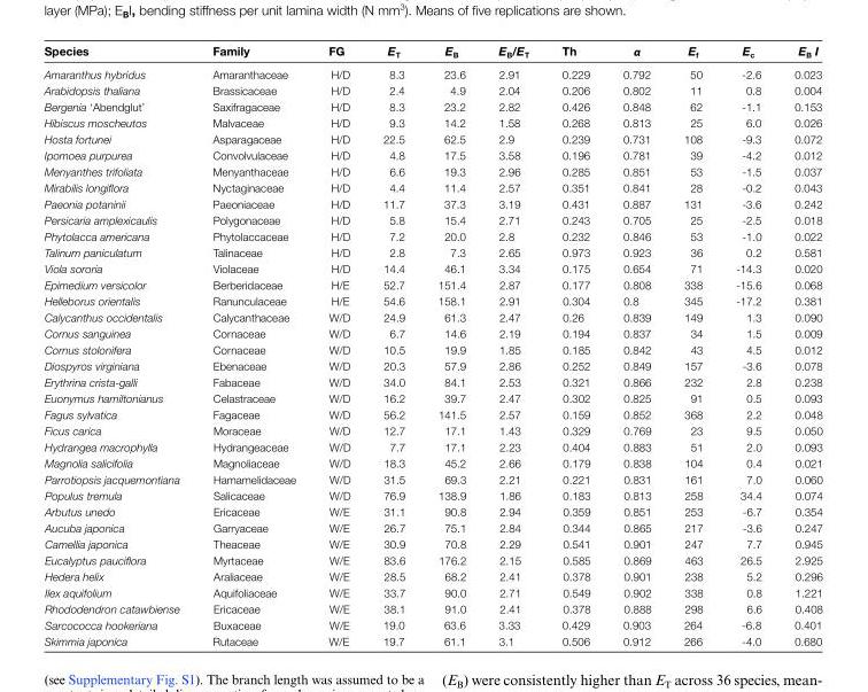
<table><thead><tr><td>Species</td><td>Family</td><td>FG</td><td>E<sub>T</sub></td><td>E<sub>B</sub></td><td>E<sub>B</sub>/E<sub>T</sub></td><td>Th</td><td>α</td><td>E<sub>f</sub></td><td>E<sub>c</sub></td><td>E<sub>B</sub> I</td></tr></thead><tbody><tr><td>Amaranthus hybridus</td><td>Amaranthaceae</td><td>H/D</td><td>8.3</td><td>23.6</td><td>2.91</td><td>0.229</td><td>0.792</td><td>50</td><td>-2.6</td><td>0.023</td></tr><tr><td>Arabidopsis thaliana</td><td>Brassicaceae</td><td>H/D</td><td>2.4</td><td>4.9</td><td>2.04</td><td>0.206</td><td>0.802</td><td>11</td><td>0.8</td><td>0.004</td></tr><tr><td>Bergenia ‘Abendglut’</td><td>Saxifragaceae</td><td>H/D</td><td>8.3</td><td>23.2</td><td>2.82</td><td>0.426</td><td>0.848</td><td>62</td><td>-1.1</td><td>0.153</td></tr><tr><td>Hibiscus moscheutos</td><td>Malvaceae</td><td>H/D</td><td>9.3</td><td>14.2</td><td>1.58</td><td>0.268</td><td>0.813</td><td>25</td><td>6.0</td><td>0.026</td></tr><tr><td>Hosta fortunei</td><td>Asparagaceae</td><td>H/D</td><td>22.5</td><td>62.5</td><td>2.9</td><td>0.239</td><td>0.731</td><td>108</td><td>-9.3</td><td>0.072</td></tr><tr><td>Ipomoea purpurea</td><td>Convolvulaceae</td><td>H/D</td><td>4.8</td><td>17.5</td><td>3.58</td><td>0.196</td><td>0.781</td><td>39</td><td>-4.2</td><td>0.012</td></tr><tr><td>Menyanthes trifoliata</td><td>Menyanthaceae</td><td>H/D</td><td>6.6</td><td>19.3</td><td>2.96</td><td>0.285</td><td>0.851</td><td>53</td><td>-1.5</td><td>0.037</td></tr><tr><td>Mirabilis longiflora</td><td>Nyctaginaceae</td><td>H/D</td><td>4.4</td><td>11.4</td><td>2.57</td><td>0.351</td><td>0.841</td><td>28</td><td>-0.2</td><td>0.043</td></tr><tr><td>Paeonia potaninii</td><td>Paeoniaceae</td><td>H/D</td><td>11.7</td><td>37.3</td><td>3.19</td><td>0.431</td><td>0.887</td><td>131</td><td>-3.6</td><td>0.242</td></tr><tr><td>Persicaria amplexicaulis</td><td>Polygonaceae</td><td>H/D</td><td>5.8</td><td>15.4</td><td>2.71</td><td>0.243</td><td>0.705</td><td>25</td><td>-2.5</td><td>0.018</td></tr><tr><td>Phytolacca americana</td><td>Phytolaccaceae</td><td>H/D</td><td>7.2</td><td>20.0</td><td>2.8</td><td>0.232</td><td>0.846</td><td>53</td><td>-1.0</td><td>0.022</td></tr><tr><td>Talinum paniculatum</td><td>Talinaceae</td><td>H/D</td><td>2.8</td><td>7.3</td><td>2.65</td><td>0.973</td><td>0.923</td><td>36</td><td>0.2</td><td>0.581</td></tr><tr><td>Viola sororia</td><td>Violaceae</td><td>H/D</td><td>14.4</td><td>46.1</td><td>3.34</td><td>0.175</td><td>0.654</td><td>71</td><td>-14.3</td><td>0.020</td></tr><tr><td>Epimedium versicolor</td><td>Berberidaceae</td><td>H/E</td><td>52.7</td><td>151.4</td><td>2.87</td><td>0.177</td><td>0.808</td><td>338</td><td>-15.6</td><td>0.068</td></tr><tr><td>Helleborus orientalis</td><td>Ranunculaceae</td><td>H/E</td><td>54.6</td><td>158.1</td><td>2.91</td><td>0.304</td><td>0.8</td><td>345</td><td>-17.2</td><td>0.381</td></tr><tr><td>Calycanthus occidentalis</td><td>Calycanthaceae</td><td>W/D</td><td>24.9</td><td>61.3</td><td>2.47</td><td>0.26</td><td>0.839</td><td>149</td><td>1.3</td><td>0.090</td></tr><tr><td>Cornus sanguinea</td><td>Cornaceae</td><td>W/D</td><td>6.7</td><td>14.6</td><td>2.19</td><td>0.194</td><td>0.837</td><td>34</td><td>1.5</td><td>0.009</td></tr><tr><td>Cornus stolonifera</td><td>Cornaceae</td><td>W/D</td><td>10.5</td><td>19.9</td><td>1.85</td><td>0.185</td><td>0.842</td><td>43</td><td>4.5</td><td>0.012</td></tr><tr><td>Diospyros virginiana</td><td>Ebenaceae</td><td>W/D</td><td>20.3</td><td>57.9</td><td>2.86</td><td>0.252</td><td>0.849</td><td>157</td><td>-3.6</td><td>0.078</td></tr><tr><td>Erythrina crista-galli</td><td>Fabaceae</td><td>W/D</td><td>34.0</td><td>84.1</td><td>2.53</td><td>0.321</td><td>0.866</td><td>232</td><td>2.8</td><td>0.238</td></tr><tr><td>Euonymus hamiltonianus</td><td>Celastraceae</td><td>W/D</td><td>16.2</td><td>39.7</td><td>2.47</td><td>0.302</td><td>0.825</td><td>91</td><td>0.5</td><td>0.093</td></tr><tr><td>Fagus sylvatica</td><td>Fagaceae</td><td>W/D</td><td>56.2</td><td>141.5</td><td>2.57</td><td>0.159</td><td>0.852</td><td>368</td><td>2.2</td><td>0.048</td></tr><tr><td>Ficus carica</td><td>Moraceae</td><td>W/D</td><td>12.7</td><td>17.1</td><td>1.43</td><td>0.329</td><td>0.769</td><td>23</td><td>9.5</td><td>0.050</td></tr><tr><td>Hydrangea macrophylla</td><td>Hydrangeaceae</td><td>W/D</td><td>7.7</td><td>17.1</td><td>2.23</td><td>0.404</td><td>0.883</td><td>51</td><td>2.0</td><td>0.093</td></tr><tr><td>Magnolia salicifolia</td><td>Magnoliaceae</td><td>W/D</td><td>18.3</td><td>45.2</td><td>2.66</td><td>0.179</td><td>0.838</td><td>104</td><td>0.4</td><td>0.021</td></tr><tr><td>Parrotiopsis jacquemontiana</td><td>Hamamelidaceae</td><td>W/D</td><td>31.5</td><td>69.3</td><td>2.21</td><td>0.221</td><td>0.831</td><td>161</td><td>7.0</td><td>0.060</td></tr><tr><td>Populus tremula</td><td>Salicaceae</td><td>W/D</td><td>76.9</td><td>138.9</td><td>1.86</td><td>0.183</td><td>0.813</td><td>258</td><td>34.4</td><td>0.074</td></tr><tr><td>Arbutus unedo</td><td>Ericaceae</td><td>W/E</td><td>31.1</td><td>90.8</td><td>2.94</td><td>0.359</td><td>0.851</td><td>253</td><td>-6.7</td><td>0.354</td></tr><tr><td>Aucuba japonica</td><td>Garryaceae</td><td>W/E</td><td>26.7</td><td>75.1</td><td>2.84</td><td>0.344</td><td>0.865</td><td>217</td><td>-3.6</td><td>0.247</td></tr><tr><td>Camellia japonica</td><td>Theaceae</td><td>W/E</td><td>30.9</td><td>70.8</td><td>2.29</td><td>0.541</td><td>0.901</td><td>247</td><td>7.7</td><td>0.945</td></tr><tr><td>Eucalyptus pauciflora</td><td>Myrtaceae</td><td>W/E</td><td>83.6</td><td>176.2</td><td>2.15</td><td>0.585</td><td>0.869</td><td>463</td><td>26.5</td><td>2.925</td></tr><tr><td>Hedera helix</td><td>Araliaceae</td><td>W/E</td><td>28.5</td><td>68.2</td><td>2.41</td><td>0.378</td><td>0.901</td><td>238</td><td>5.2</td><td>0.296</td></tr><tr><td>Ilex aquifolium</td><td>Aquifoliaceae</td><td>W/E</td><td>33.7</td><td>90.0</td><td>2.71</td><td>0.549</td><td>0.902</td><td>338</td><td>0.8</td><td>1.221</td></tr><tr><td>Rhododendron catawbiense</td><td>Ericaceae</td><td>W/E</td><td>38.1</td><td>91.0</td><td>2.41</td><td>0.378</td><td>0.888</td><td>298</td><td>6.6</td><td>0.408</td></tr><tr><td>Sarcococca hookeriana</td><td>Buxaceae</td><td>W/E</td><td>19.0</td><td>63.6</td><td>3.33</td><td>0.429</td><td>0.903</td><td>264</td><td>-6.8</td><td>0.401</td></tr><tr><td>Skimmia japonica</td><td>Rutaceae</td><td>W/E</td><td>19.7</td><td>61.1</td><td>3.1</td><td>0.506</td><td>0.912</td><td>266</td><td>-4.0</td><td>0.680</td></tr></tbody></table>